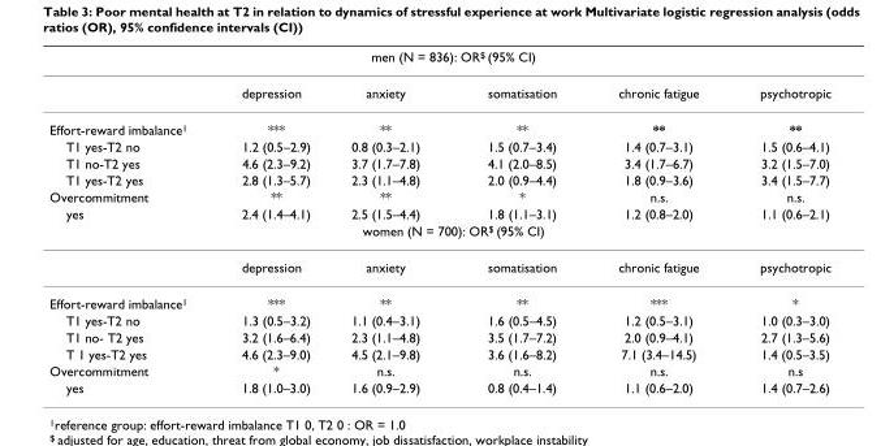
<table><thead><tr><td colspan="6">men (N = 836): OR<sup>$</sup> (95% CI)</td></tr><tr><td></td><td>depression</td><td>anxiety</td><td>somatisation</td><td>chronic fatigue</td><td>psychotropic</td></tr></thead><tbody><tr><td>Effort-reward imbalance<sup>1</sup></td><td>***</td><td>**</td><td>**</td><td>**</td><td>**</td></tr><tr><td>T1 yes-T2 no</td><td>1.2 (0.5–2.9)</td><td>0.8 (0.3–2.1)</td><td>1.5 (0.7–3.4)</td><td>1.4 (0.7–3.1)</td><td>1.5 (0.6–4.1)</td></tr><tr><td>T1 no-T2 yes</td><td>4.6 (2.3–9.2)</td><td>3.7 (1.7–7.8)</td><td>4.1 (2.0–8.5)</td><td>3.4 (1.7–6.7)</td><td>3.2 (1.5–7.0)</td></tr><tr><td>T1 yes-T2 yes</td><td>2.8 (1.3–5.7)</td><td>2.3 (1.1–4.8)</td><td>2.0 (0.9–4.4)</td><td>1.8 (0.9–3.6)</td><td>3.4 (1.5–7.7)</td></tr><tr><td>Overcommitment</td><td>**</td><td>**</td><td>*</td><td>n.s.</td><td>n.s.</td></tr><tr><td>yes</td><td>2.4 (1.4–4.1)</td><td>2.5 (1.5–4.4)</td><td>1.8 (1.1–3.1)</td><td>1.2 (0.8–2.0)</td><td>1.1 (0.6–2.1)</td></tr><tr><td colspan="6">women (N = 700): OR<sup>$</sup> (95% CI)</td></tr><tr><td></td><td>depression</td><td>anxiety</td><td>somatisation</td><td>chronic fatigue</td><td>psychotropic</td></tr><tr><td>Effort-reward imbalance<sup>1</sup></td><td>***</td><td>**</td><td>**</td><td>***</td><td>*</td></tr><tr><td>T1 yes-T2 no</td><td>1.3 (0.5–3.2)</td><td>1.1 (0.4–3.1)</td><td>1.6 (0.5–4.5)</td><td>1.2 (0.5–3.1)</td><td>1.0 (0.3–3.0)</td></tr><tr><td>T1 no- T2 yes</td><td>3.2 (1.6–6.4)</td><td>2.3 (1.1–4.8)</td><td>3.5 (1.7–7.2)</td><td>2.0 (0.9–4.1)</td><td>2.7 (1.3–5.6)</td></tr><tr><td>T 1 yes-T2 yes</td><td>4.6 (2.3–9.0)</td><td>4.5 (2.1–9.8)</td><td>3.6 (1.6–8.2)</td><td>7.1 (3.4–14.5)</td><td>1.4 (0.5–3.5)</td></tr><tr><td>Overcommitment</td><td>*</td><td>n.s.</td><td>n.s.</td><td>n.s.</td><td>n.s</td></tr><tr><td>yes</td><td>1.8 (1.0–3.0)</td><td>1.6 (0.9–2.9)</td><td>0.8 (0.4–1.4)</td><td>1.1 (0.6–2.0)</td><td>1.4 (0.7–2.6)</td></tr></tbody></table>